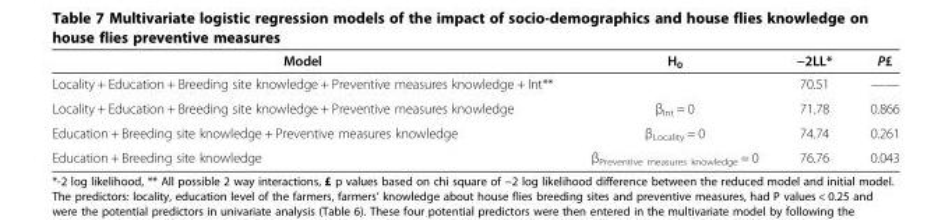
<table><thead><tr><td>Model</td><td>H<sub>0</sub></td><td>−2LL*</td><td>P£</td></tr></thead><tbody><tr><td>Locality + Education + Breeding site knowledge + Preventive measures knowledge + Int**</td><td></td><td>70.51</td><td>——</td></tr><tr><td>Locality + Education + Breeding site knowledge + Preventive measures knowledge</td><td>β<sub>Int</sub> = 0</td><td>71.78</td><td>0.866</td></tr><tr><td>Education + Breeding site knowledge + Preventive measures knowledge</td><td>β<sub>Locality</sub> = 0</td><td>74.74</td><td>0.261</td></tr><tr><td>Education + Breeding site knowledge</td><td>β<sub>Preventive measures knowledge</sub> = 0</td><td>76.76</td><td>0.043</td></tr></tbody></table>